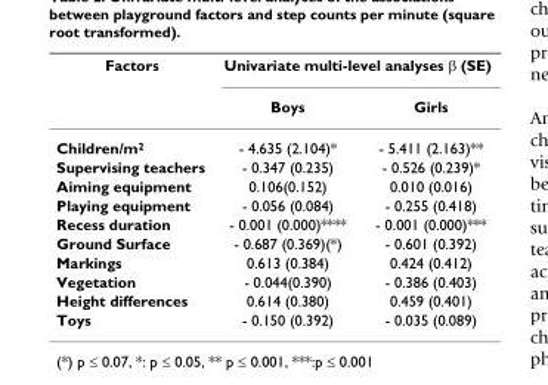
<table><thead><tr><td rowspan="2">Factors</td><td colspan="2">Univariate multi-level analyses β (SE)</td></tr><tr><td>Boys</td><td>Girls</td></tr></thead><tbody><tr><td>Children/m<sup>2</sup></td><td>- 4.635 (2.104)*</td><td>- 5.411 (2.163)**</td></tr><tr><td>Supervising teachers</td><td>- 0.347 (0.235)</td><td>- 0.526 (0.239)*</td></tr><tr><td>Aiming equipment</td><td>0.106(0.152)</td><td>0.010 (0.016)</td></tr><tr><td>Playing equipment</td><td>- 0.056 (0.084)</td><td>- 0.255 (0.418)</td></tr><tr><td>Recess duration</td><td>- 0.001 (0.000)****</td><td>- 0.001 (0.000)***</td></tr><tr><td>Ground Surface</td><td>- 0.687 (0.369)(*)</td><td>- 0.601 (0.392)</td></tr><tr><td>Markings</td><td>0.613 (0.384)</td><td>0.424 (0.412)</td></tr><tr><td>Vegetation</td><td>- 0.044(0.390)</td><td>- 0.386 (0.403)</td></tr><tr><td>Height differences</td><td>0.614 (0.380)</td><td>0.459 (0.401)</td></tr><tr><td>Toys</td><td>- 0.150 (0.392)</td><td>- 0.035 (0.089)</td></tr></tbody></table>